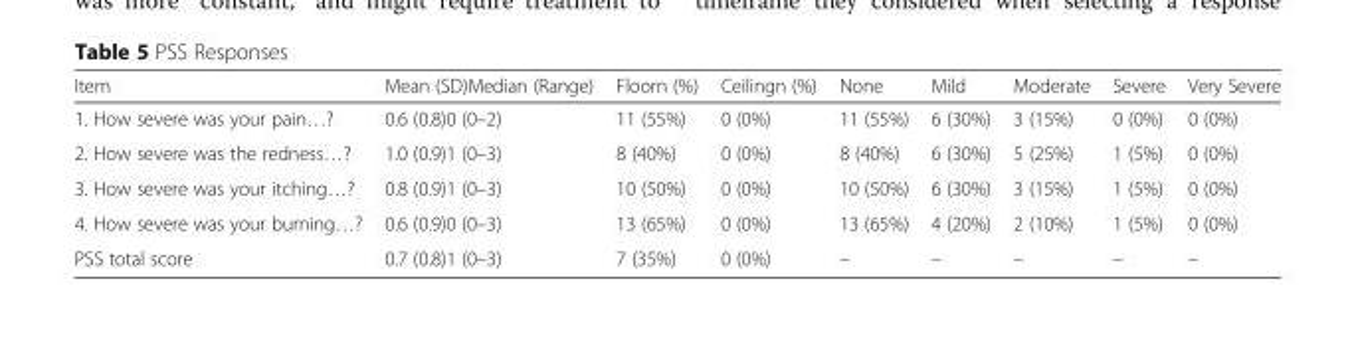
<table><thead><tr><td>Item</td><td>Mean (SD)Median (Range)</td><td>Floorn (%)</td><td>Ceilingn (%)</td><td>None</td><td>Mild</td><td>Moderate</td><td>Severe</td><td>Very Severe</td></tr></thead><tbody><tr><td>1. How severe was your pain…?</td><td>0.6 (0.8)0 (0–2)</td><td>11 (55%)</td><td>0 (0%)</td><td>11 (55%)</td><td>6 (30%)</td><td>3 (15%)</td><td>0 (0%)</td><td>0 (0%)</td></tr><tr><td>2. How severe was the redness…?</td><td>1.0 (0.9)1 (0–3)</td><td>8 (40%)</td><td>0 (0%)</td><td>8 (40%)</td><td>6 (30%)</td><td>5 (25%)</td><td>1 (5%)</td><td>0 (0%)</td></tr><tr><td>3. How severe was your itching…?</td><td>0.8 (0.9)1 (0–3)</td><td>10 (50%)</td><td>0 (0%)</td><td>10 (50%)</td><td>6 (30%)</td><td>3 (15%)</td><td>1 (5%)</td><td>0 (0%)</td></tr><tr><td>4. How severe was your burning…?</td><td>0.6 (0.9)0 (0–3)</td><td>13 (65%)</td><td>0 (0%)</td><td>13 (65%)</td><td>4 (20%)</td><td>2 (10%)</td><td>1 (5%)</td><td>0 (0%)</td></tr><tr><td>PSS total score</td><td>0.7 (0.8)1 (0–3)</td><td>7 (35%)</td><td>0 (0%)</td><td>–</td><td>–</td><td>–</td><td>–</td><td>–</td></tr></tbody></table>